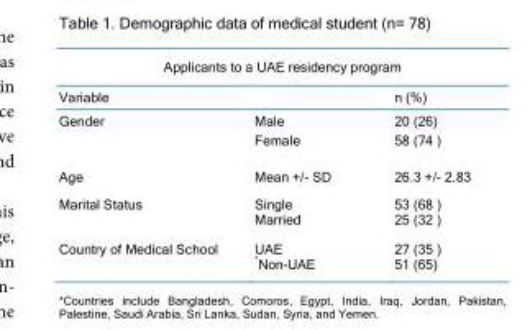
<table><thead><tr><td colspan="3">Applicants to a UAE residency program</td></tr><tr><td>Variable</td><td></td><td>n (%)</td></tr></thead><tbody><tr><td>Gender</td><td>Male Female</td><td>20 (26) 58 (74 )</td></tr><tr><td>Age</td><td>Mean +/- SD</td><td>26.3 +/- 2.83</td></tr><tr><td>Marital Status</td><td>Single Married</td><td>53 (68 ) 25 (32 )</td></tr><tr><td>Country of Medical School</td><td>UAE *Non-UAE</td><td>27 (35 ) 51 (65)</td></tr></tbody></table>